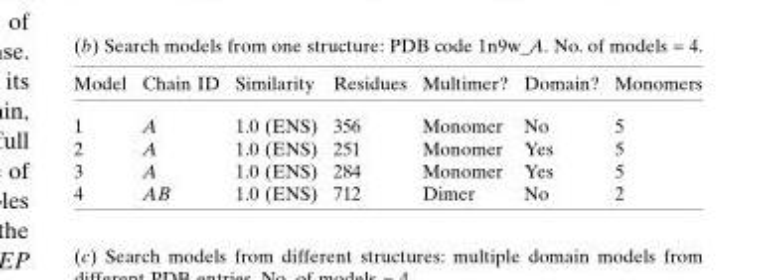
<table><thead><tr><td>Model</td><td>Chain ID</td><td>Similarity</td><td>Residues</td><td>Multimer?</td><td>Domain?</td><td>Monomers</td></tr></thead><tbody><tr><td>1</td><td>A</td><td>1.0 (ENS)</td><td>356</td><td>Monomer</td><td>No</td><td>5</td></tr><tr><td>2</td><td>A</td><td>1.0 (ENS)</td><td>251</td><td>Monomer</td><td>Yes</td><td>5</td></tr><tr><td>3</td><td>A</td><td>1.0 (ENS)</td><td>284</td><td>Monomer</td><td>Yes</td><td>5</td></tr><tr><td>4</td><td>AB</td><td>1.0 (ENS)</td><td>712</td><td>Dimer</td><td>No</td><td>2</td></tr></tbody></table>